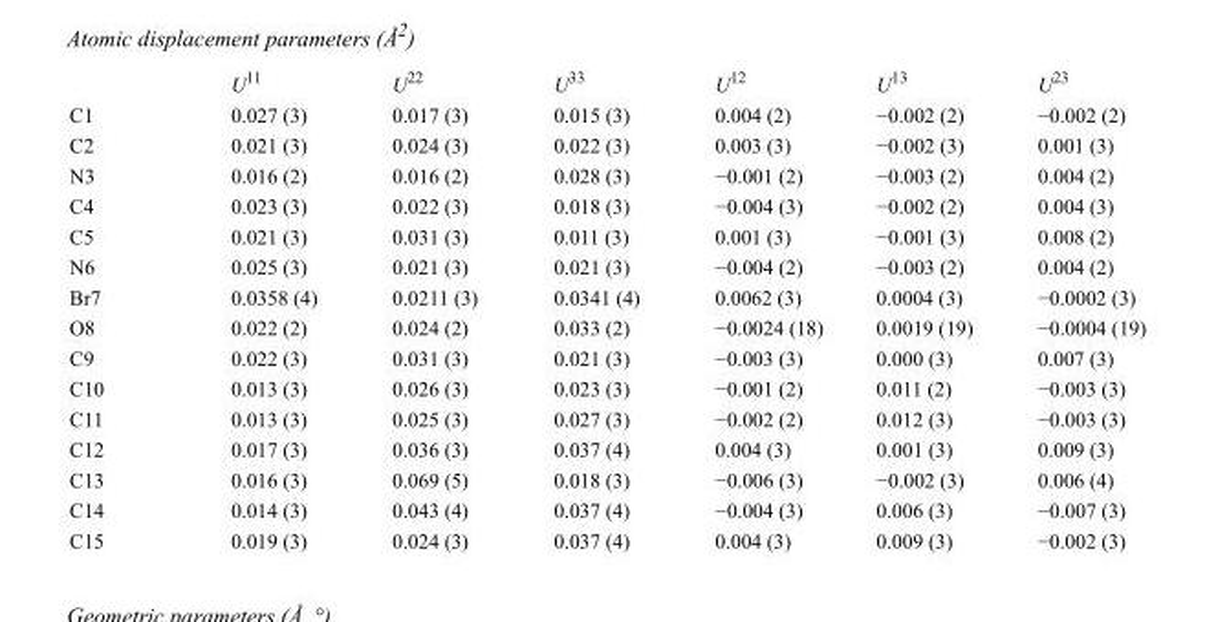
<table><thead><tr><td></td><td>U<sup>11</sup></td><td>U<sup>22</sup></td><td>U<sup>33</sup></td><td>U<sup>12</sup></td><td>U<sup>13</sup></td><td>U<sup>23</sup></td></tr></thead><tbody><tr><td>C1</td><td>0.027 (3)</td><td>0.017 (3)</td><td>0.015 (3)</td><td>0.004 (2)</td><td>−0.002 (2)</td><td>−0.002 (2)</td></tr><tr><td>C2</td><td>0.021 (3)</td><td>0.024 (3)</td><td>0.022 (3)</td><td>0.003 (3)</td><td>−0.002 (3)</td><td>0.001 (3)</td></tr><tr><td>N3</td><td>0.016 (2)</td><td>0.016 (2)</td><td>0.028 (3)</td><td>−0.001 (2)</td><td>−0.003 (2)</td><td>0.004 (2)</td></tr><tr><td>C4</td><td>0.023 (3)</td><td>0.022 (3)</td><td>0.018 (3)</td><td>−0.004 (3)</td><td>−0.002 (2)</td><td>0.004 (3)</td></tr><tr><td>C5</td><td>0.021 (3)</td><td>0.031 (3)</td><td>0.011 (3)</td><td>0.001 (3)</td><td>−0.001 (3)</td><td>0.008 (2)</td></tr><tr><td>N6</td><td>0.025 (3)</td><td>0.021 (3)</td><td>0.021 (3)</td><td>−0.004 (2)</td><td>−0.003 (2)</td><td>0.004 (2)</td></tr><tr><td>Br7</td><td>0.0358 (4)</td><td>0.0211 (3)</td><td>0.0341 (4)</td><td>0.0062 (3)</td><td>0.0004 (3)</td><td>−0.0002 (3)</td></tr><tr><td>O8</td><td>0.022 (2)</td><td>0.024 (2)</td><td>0.033 (2)</td><td>−0.0024 (18)</td><td>0.0019 (19)</td><td>−0.0004 (19)</td></tr><tr><td>C9</td><td>0.022 (3)</td><td>0.031 (3)</td><td>0.021 (3)</td><td>−0.003 (3)</td><td>0.000 (3)</td><td>0.007 (3)</td></tr><tr><td>C10</td><td>0.013 (3)</td><td>0.026 (3)</td><td>0.023 (3)</td><td>−0.001 (2)</td><td>0.011 (2)</td><td>−0.003 (3)</td></tr><tr><td>C11</td><td>0.013 (3)</td><td>0.025 (3)</td><td>0.027 (3)</td><td>−0.002 (2)</td><td>0.012 (3)</td><td>−0.003 (3)</td></tr><tr><td>C12</td><td>0.017 (3)</td><td>0.036 (3)</td><td>0.037 (4)</td><td>0.004 (3)</td><td>0.001 (3)</td><td>0.009 (3)</td></tr><tr><td>C13</td><td>0.016 (3)</td><td>0.069 (5)</td><td>0.018 (3)</td><td>−0.006 (3)</td><td>−0.002 (3)</td><td>0.006 (4)</td></tr><tr><td>C14</td><td>0.014 (3)</td><td>0.043 (4)</td><td>0.037 (4)</td><td>−0.004 (3)</td><td>0.006 (3)</td><td>−0.007 (3)</td></tr><tr><td>C15</td><td>0.019 (3)</td><td>0.024 (3)</td><td>0.037 (4)</td><td>0.004 (3)</td><td>0.009 (3)</td><td>−0.002 (3)</td></tr></tbody></table>